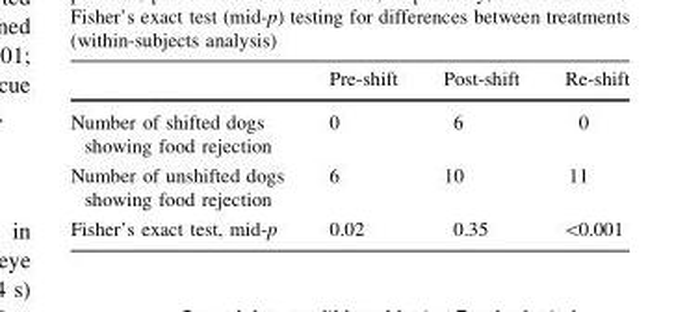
<table><thead><tr><td></td><td>Pre-shift</td><td>Post-shift</td><td>Re-shift</td></tr></thead><tbody><tr><td>Number of shifted dogs showing food rejection</td><td>0</td><td>6</td><td>0</td></tr><tr><td>Number of unshifted dogs showing food rejection</td><td>6</td><td>10</td><td>11</td></tr><tr><td>Fisher’s exact test, mid-p</td><td>0.02</td><td>0.35</td><td>&lt;0.001</td></tr></tbody></table>